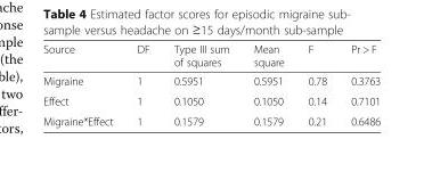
<table><thead><tr><td>Source</td><td>DF</td><td>Type III sum of squares</td><td>Mean square</td><td>F</td><td>Pr &gt; F</td></tr></thead><tbody><tr><td>Migraine</td><td>1</td><td>0.5951</td><td>0.5951</td><td>0.78</td><td>0.3763</td></tr><tr><td>Effect</td><td>1</td><td>0.1050</td><td>0.1050</td><td>0.14</td><td>0.7101</td></tr><tr><td>Migraine*Effect</td><td>1</td><td>0.1579</td><td>0.1579</td><td>0.21</td><td>0.6486</td></tr></tbody></table>